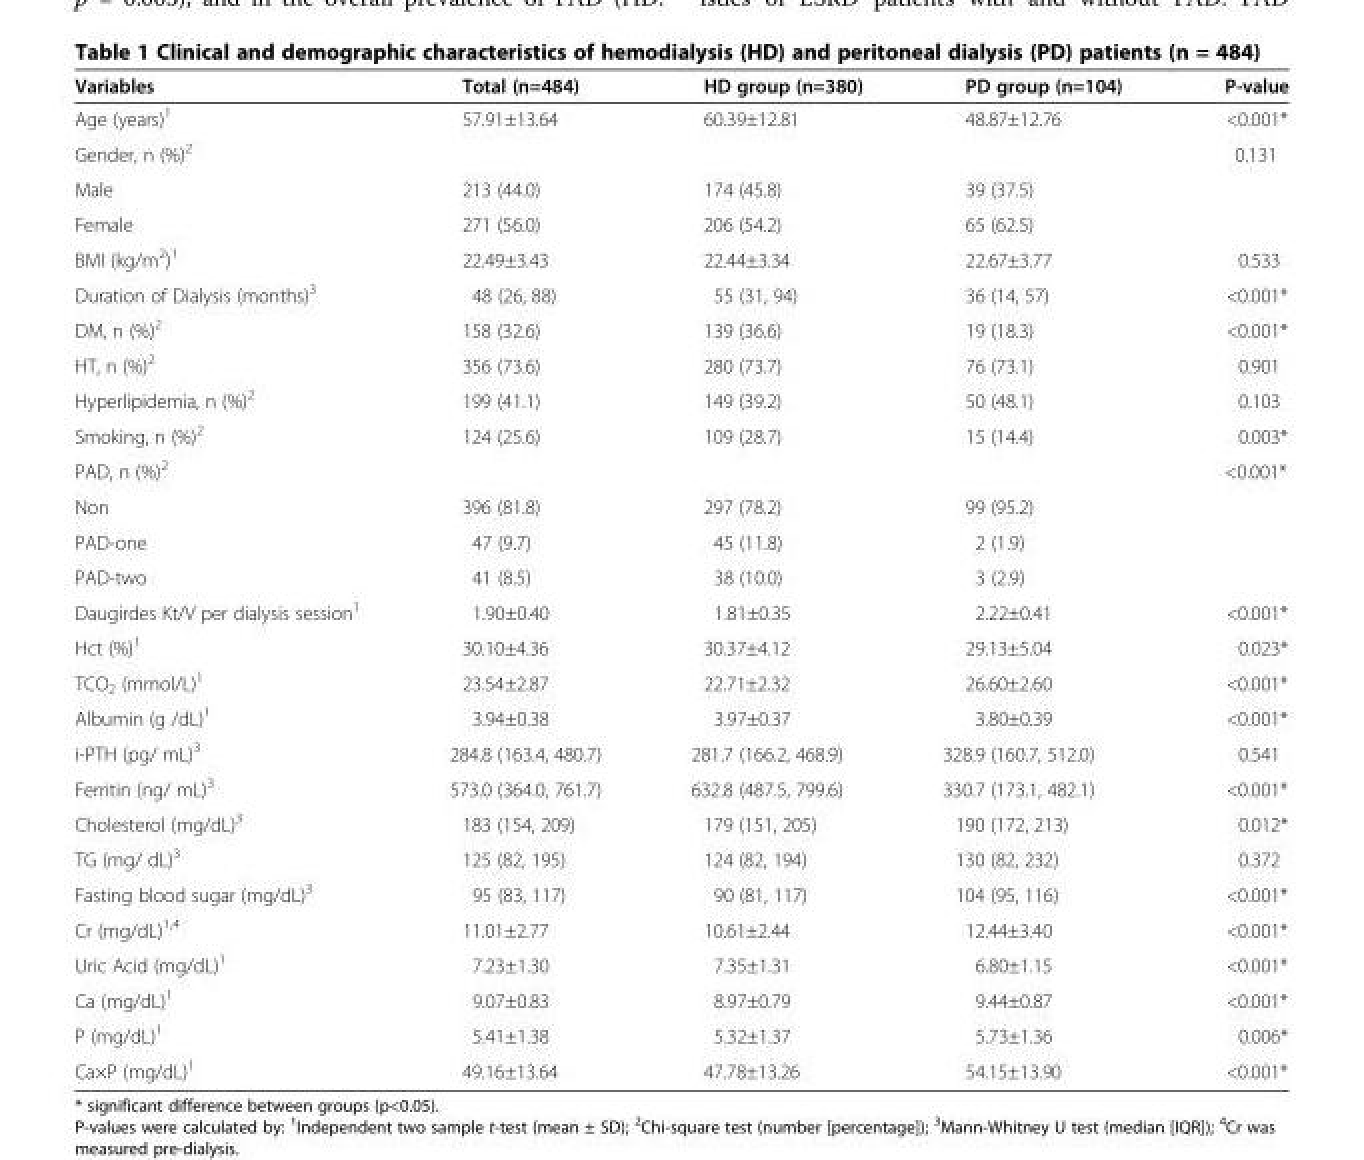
<table><thead><tr><td>Variables</td><td>Total (n=484)</td><td>HD group (n=380)</td><td>PD group (n=104)</td><td>P-value</td></tr></thead><tbody><tr><td>Age (years)<sup>1</sup></td><td>57.91±13.64</td><td>60.39±12.81</td><td>48.87±12.76</td><td>&lt;0.001*</td></tr><tr><td>Gender, n (%)<sup>2</sup></td><td></td><td></td><td></td><td>0.131</td></tr><tr><td>Male</td><td>213 (44.0)</td><td>174 (45.8)</td><td>39 (37.5)</td><td></td></tr><tr><td>Female</td><td>271 (56.0)</td><td>206 (54.2)</td><td>65 (62.5)</td><td></td></tr><tr><td>BMI (kg/m<sup>2</sup>)<sup>1</sup></td><td>22.49±3.43</td><td>22.44±3.34</td><td>22.67±3.77</td><td>0.533</td></tr><tr><td>Duration of Dialysis (months)<sup>3</sup></td><td>48 (26, 88)</td><td>55 (31, 94)</td><td>36 (14, 57)</td><td>&lt;0.001*</td></tr><tr><td>DM, n (%)<sup>2</sup></td><td>158 (32.6)</td><td>139 (36.6)</td><td>19 (18.3)</td><td>&lt;0.001*</td></tr><tr><td>HT, n (%)<sup>2</sup></td><td>356 (73.6)</td><td>280 (73.7)</td><td>76 (73.1)</td><td>0.901</td></tr><tr><td>Hyperlipidemia, n (%)<sup>2</sup></td><td>199 (41.1)</td><td>149 (39.2)</td><td>50 (48.1)</td><td>0.103</td></tr><tr><td>Smoking, n (%)<sup>2</sup></td><td>124 (25.6)</td><td>109 (28.7)</td><td>15 (14.4)</td><td>0.003*</td></tr><tr><td colspan="4">PAD, n (%)<sup>2</sup></td><td rowspan="4">&lt;0.001*</td></tr><tr><td>Non</td><td>396 (81.8)</td><td>297 (78.2)</td><td>99 (95.2)</td></tr><tr><td>PAD-one</td><td>47 (9.7)</td><td>45 (11.8)</td><td>2 (1.9)</td></tr><tr><td>PAD-two</td><td>41 (8.5)</td><td>38 (10.0)</td><td>3 (2.9)</td></tr><tr><td>Daugirdes Kt/V per dialysis session<sup>1</sup></td><td>1.90±0.40</td><td>1.81±0.35</td><td>2.22±0.41</td><td>&lt;0.001*</td></tr><tr><td>Hct (%)<sup>1</sup></td><td>30.10±4.36</td><td>30.37±4.12</td><td>29.13±5.04</td><td>0.023*</td></tr><tr><td>TCO<sub>2</sub> (mmol/L)<sup>1</sup></td><td>23.54±2.87</td><td>22.71±2.32</td><td>26.60±2.60</td><td>&lt;0.001*</td></tr><tr><td>Albumin (g /dL)<sup>1</sup></td><td>3.94±0.38</td><td>3.97±0.37</td><td>3.80±0.39</td><td>&lt;0.001*</td></tr><tr><td>i-PTH (pg/ mL)<sup>3</sup></td><td>284.8 (163.4, 480.7)</td><td>281.7 (166.2, 468.9)</td><td>328.9 (160.7, 512.0)</td><td>0.541</td></tr><tr><td>Ferritin (ng/ mL)<sup>3</sup></td><td>573.0 (364.0, 761.7)</td><td>632.8 (487.5, 799.6)</td><td>330.7 (173.1, 482.1)</td><td>&lt;0.001*</td></tr><tr><td>Cholesterol (mg/dL)<sup>3</sup></td><td>183 (154, 209)</td><td>179 (151, 205)</td><td>190 (172, 213)</td><td>0.012*</td></tr><tr><td>TG (mg/ dL)<sup>3</sup></td><td>125 (82, 195)</td><td>124 (82, 194)</td><td>130 (82, 232)</td><td>0.372</td></tr><tr><td>Fasting blood sugar (mg/dL)<sup>3</sup></td><td>95 (83, 117)</td><td>90 (81, 117)</td><td>104 (95, 116)</td><td>&lt;0.001*</td></tr><tr><td>Cr (mg/dL)<sup>1,4</sup></td><td>11.01±2.77</td><td>10.61±2.44</td><td>12.44±3.40</td><td>&lt;0.001*</td></tr><tr><td>Uric Acid (mg/dL)<sup>1</sup></td><td>7.23±1.30</td><td>7.35±1.31</td><td>6.80±1.15</td><td>&lt;0.001*</td></tr><tr><td>Ca (mg/dL)<sup>1</sup></td><td>9.07±0.83</td><td>8.97±0.79</td><td>9.44±0.87</td><td>&lt;0.001*</td></tr><tr><td>P (mg/dL)<sup>1</sup></td><td>5.41±1.38</td><td>5.32±1.37</td><td>5.73±1.36</td><td>0.006*</td></tr><tr><td>Ca×P (mg/dL)<sup>1</sup></td><td>49.16±13.64</td><td>47.78±13.26</td><td>54.15±13.90</td><td>&lt;0.001*</td></tr></tbody></table>